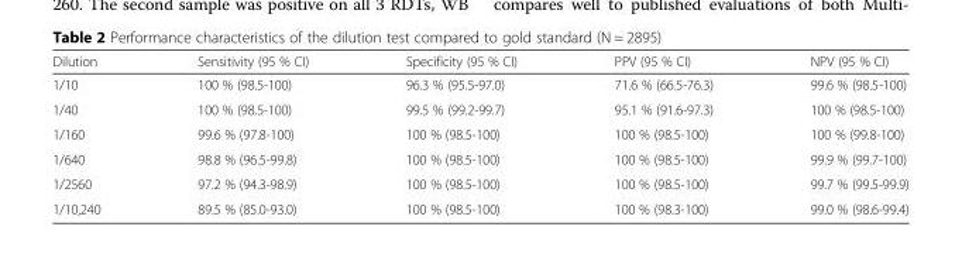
<table><thead><tr><td>Dilution</td><td>Sensitivity (95 % CI)</td><td>Specificity (95 % CI)</td><td>PPV (95 % CI)</td><td>NPV (95 % CI)</td></tr></thead><tbody><tr><td>1/10</td><td>100 % (98.5-100)</td><td>96.3 % (95.5-97.0)</td><td>71.6 % (66.5-76.3)</td><td>99.6 % (98.5-100)</td></tr><tr><td>1/40</td><td>100 % (98.5-100)</td><td>99.5 % (99.2-99.7)</td><td>95.1 % (91.6-97.3)</td><td>100 % (98.5-100)</td></tr><tr><td>1/160</td><td>99.6 % (97.8-100)</td><td>100 % (98.5-100)</td><td>100 % (98.5-100)</td><td>100 % (99.8-100)</td></tr><tr><td>1/640</td><td>98.8 % (96.5-99.8)</td><td>100 % (98.5-100)</td><td>100 % (98.5-100)</td><td>99.9 % (99.7-100)</td></tr><tr><td>1/2560</td><td>97.2 % (94.3-98.9)</td><td>100 % (98.5-100)</td><td>100 % (98.5-100)</td><td>99.7 % (99.5-99.9)</td></tr><tr><td>1/10,240</td><td>89.5 % (85.0-93.0)</td><td>100 % (98.5-100)</td><td>100 % (98.3-100)</td><td>99.0 % (98.6-99.4)</td></tr></tbody></table>